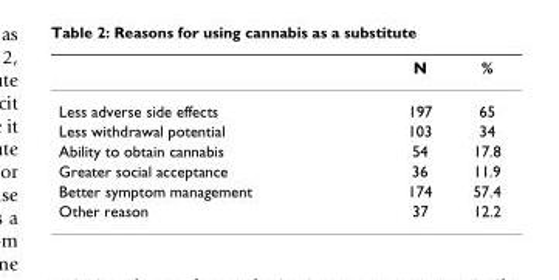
<table><thead><tr><td></td><td>N</td><td>%</td></tr></thead><tbody><tr><td>Less adverse side effects</td><td>197</td><td>65</td></tr><tr><td>Less withdrawal potential</td><td>103</td><td>34</td></tr><tr><td>Ability to obtain cannabis</td><td>54</td><td>17.8</td></tr><tr><td>Greater social acceptance</td><td>36</td><td>11.9</td></tr><tr><td>Better symptom management</td><td>174</td><td>57.4</td></tr><tr><td>Other reason</td><td>37</td><td>12.2</td></tr></tbody></table>